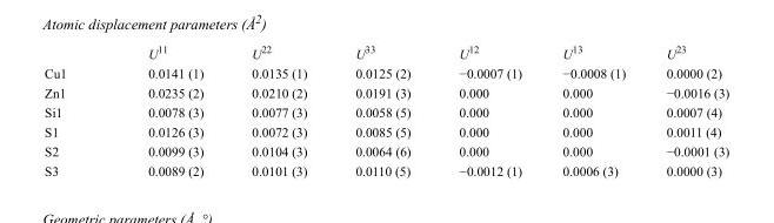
<table><thead><tr><td></td><td>U<sup>11</sup></td><td>U<sup>22</sup></td><td>U<sup>33</sup></td><td>U<sup>12</sup></td><td>U<sup>13</sup></td><td>U<sup>23</sup></td></tr></thead><tbody><tr><td>Cu1</td><td>0.0141 (1)</td><td>0.0135 (1)</td><td>0.0125 (2)</td><td>−0.0007 (1)</td><td>−0.0008 (1)</td><td>0.0000 (2)</td></tr><tr><td>Zn1</td><td>0.0235 (2)</td><td>0.0210 (2)</td><td>0.0191 (3)</td><td>0.000</td><td>0.000</td><td>−0.0016 (3)</td></tr><tr><td>Si1</td><td>0.0078 (3)</td><td>0.0077 (3)</td><td>0.0058 (5)</td><td>0.000</td><td>0.000</td><td>0.0007 (4)</td></tr><tr><td>S1</td><td>0.0126 (3)</td><td>0.0072 (3)</td><td>0.0085 (5)</td><td>0.000</td><td>0.000</td><td>0.0011 (4)</td></tr><tr><td>S2</td><td>0.0099 (3)</td><td>0.0104 (3)</td><td>0.0064 (6)</td><td>0.000</td><td>0.000</td><td>−0.0001 (3)</td></tr><tr><td>S3</td><td>0.0089 (2)</td><td>0.0101 (3)</td><td>0.0110 (5)</td><td>−0.0012 (1)</td><td>0.0006 (3)</td><td>0.0000 (3)</td></tr></tbody></table>